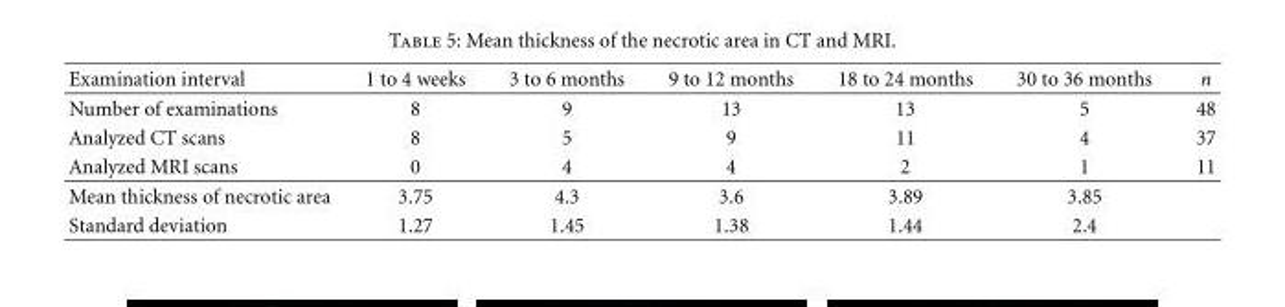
<table><thead><tr><td>Examination interval</td><td>1 to 4 weeks</td><td>3 to 6 months</td><td>9 to 12 months</td><td>18 to 24 months</td><td>30 to 36 months</td><td>n</td></tr></thead><tbody><tr><td>Number of examinations</td><td>8</td><td>9</td><td>13</td><td>13</td><td>5</td><td>48</td></tr><tr><td>Analyzed CT scans</td><td>8</td><td>5</td><td>9</td><td>11</td><td>4</td><td>37</td></tr><tr><td>Analyzed MRI scans</td><td>0</td><td>4</td><td>4</td><td>2</td><td>1</td><td>11</td></tr><tr><td>Mean thickness of necrotic area</td><td>3.75</td><td>4.3</td><td>3.6</td><td>3.89</td><td>3.85</td><td></td></tr><tr><td>Standard deviation</td><td>1.27</td><td>1.45</td><td>1.38</td><td>1.44</td><td>2.4</td><td></td></tr></tbody></table>